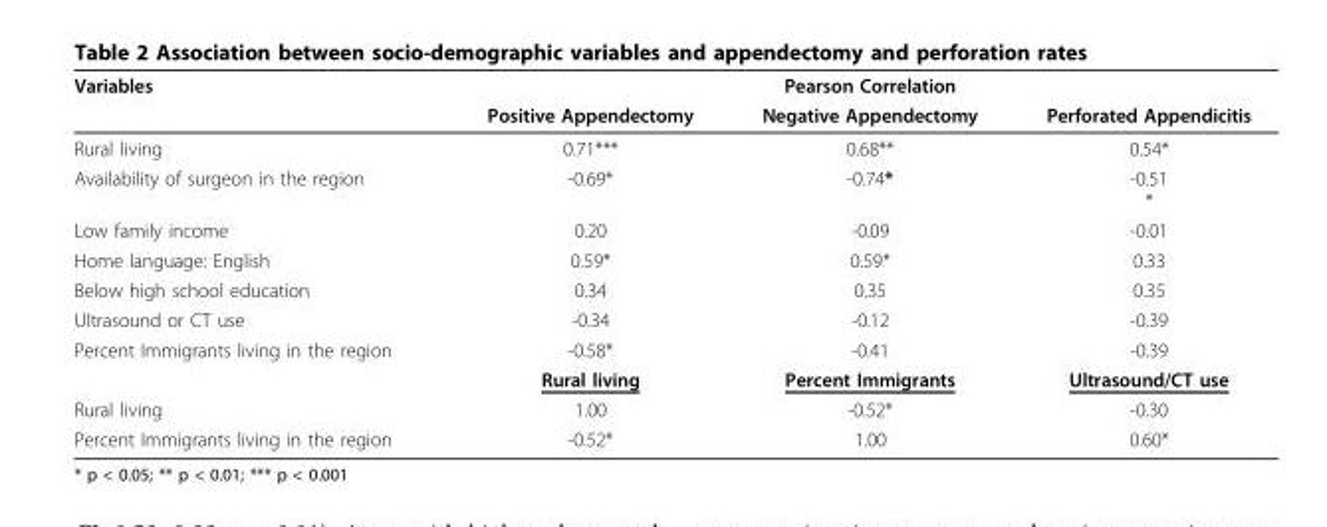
<table><thead><tr><td rowspan="2">Variables</td><td rowspan="2">Positive Appendectomy</td><td rowspan="2">Pearson Correlation Negative Appendectomy</td><td rowspan="2">Perforated Appendicitis</td></tr><tr></tr></thead><tbody><tr><td>Rural living</td><td>0.71***</td><td>0.68**</td><td>0.54*</td></tr><tr><td>Availability of surgeon in the region</td><td>-0.69*</td><td>-0.74*</td><td>-0.51 *</td></tr><tr><td>Low family income</td><td>0.20</td><td>-0.09</td><td>-0.01</td></tr><tr><td>Home language: English</td><td>0.59*</td><td>0.59*</td><td>0.33</td></tr><tr><td>Below high school education</td><td>0.34</td><td>0.35</td><td>0.35</td></tr><tr><td>Ultrasound or CT use</td><td>-0.34</td><td>-0.12</td><td>-0.39</td></tr><tr><td rowspan="2">Percent Immigrants living in the region</td><td>-0.58*</td><td>-0.41</td><td>-0.39</td></tr><tr><td>Rural living</td><td>Percent Immigrants</td><td>Ultrasound/CT use</td></tr><tr><td>Rural living</td><td>1.00</td><td>-0.52*</td><td>-0.30</td></tr><tr><td>Percent Immigrants living in the region</td><td>-0.52*</td><td>1.00</td><td>0.60*</td></tr></tbody></table>